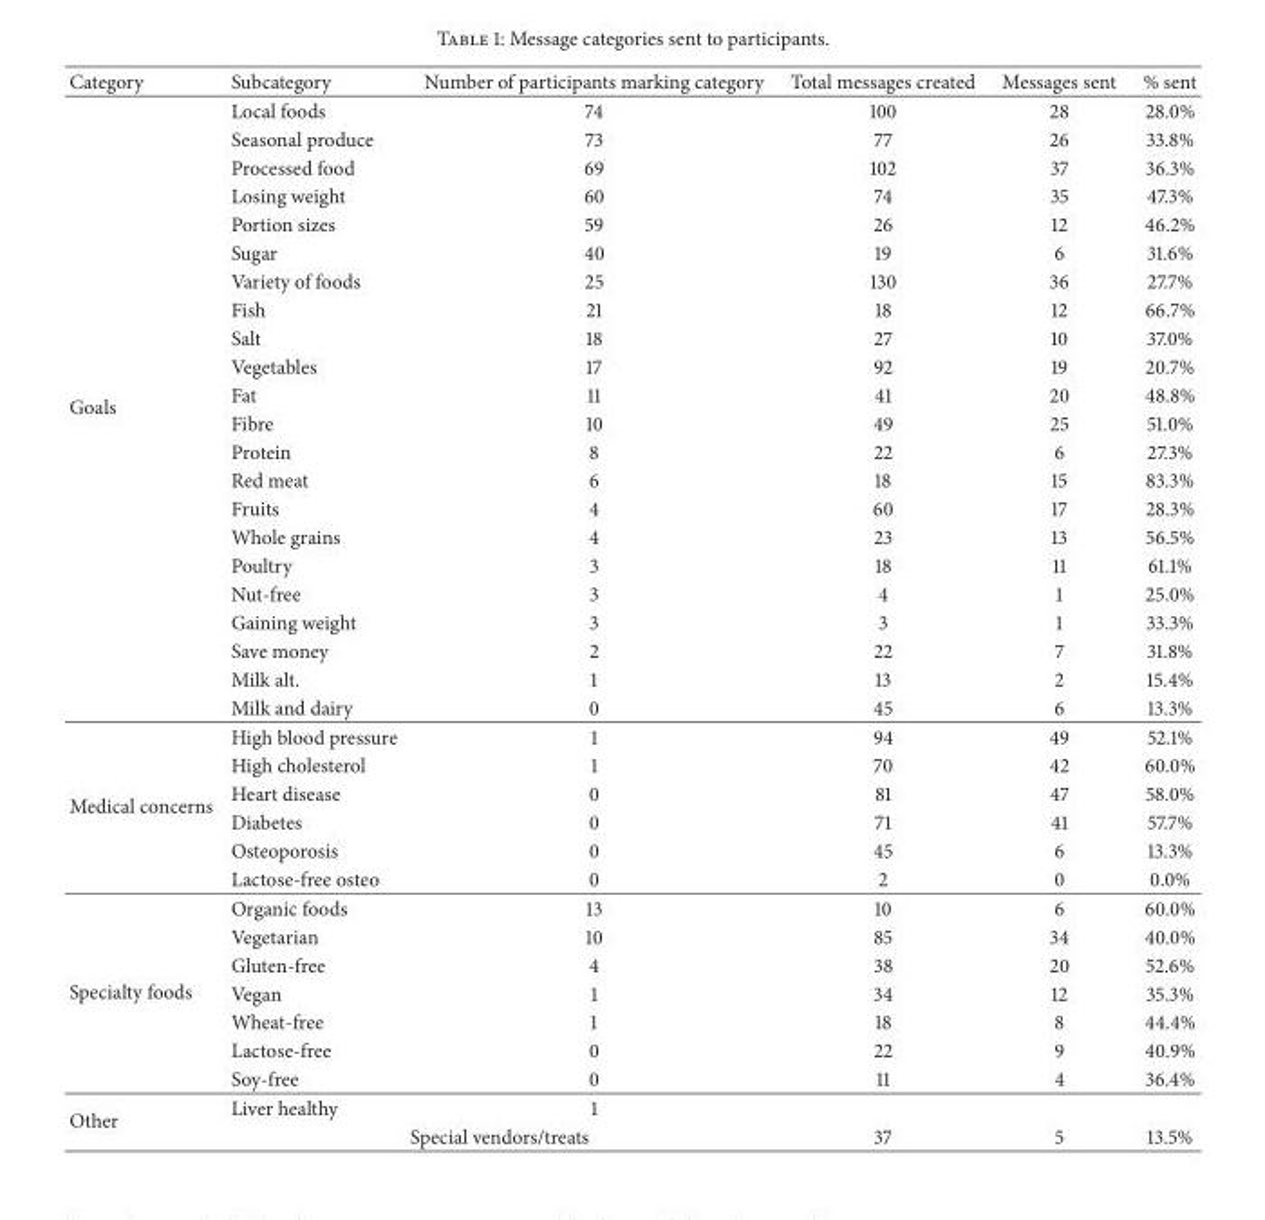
<table><thead><tr><td>Category</td><td>Subcategory</td><td>Number of participants marking category</td><td>Total messages created</td><td>Messages sent</td><td>% sent</td></tr></thead><tbody><tr><td rowspan="22">Goals</td><td>Local foods</td><td>74</td><td>100</td><td>28</td><td>28.0%</td></tr><tr><td>Seasonal produce</td><td>73</td><td>77</td><td>26</td><td>33.8%</td></tr><tr><td>Processed food</td><td>69</td><td>102</td><td>37</td><td>36.3%</td></tr><tr><td>Losing weight</td><td>60</td><td>74</td><td>35</td><td>47.3%</td></tr><tr><td>Portion sizes</td><td>59</td><td>26</td><td>12</td><td>46.2%</td></tr><tr><td>Sugar</td><td>40</td><td>19</td><td>6</td><td>31.6%</td></tr><tr><td>Variety of foods</td><td>25</td><td>130</td><td>36</td><td>27.7%</td></tr><tr><td>Fish</td><td>21</td><td>18</td><td>12</td><td>66.7%</td></tr><tr><td>Salt</td><td>18</td><td>27</td><td>10</td><td>37.0%</td></tr><tr><td>Vegetables</td><td>17</td><td>92</td><td>19</td><td>20.7%</td></tr><tr><td>Fat</td><td>11</td><td>41</td><td>20</td><td>48.8%</td></tr><tr><td>Fibre</td><td>10</td><td>49</td><td>25</td><td>51.0%</td></tr><tr><td>Protein</td><td>8</td><td>22</td><td>6</td><td>27.3%</td></tr><tr><td>Red meat</td><td>6</td><td>18</td><td>15</td><td>83.3%</td></tr><tr><td>Fruits</td><td>4</td><td>60</td><td>17</td><td>28.3%</td></tr><tr><td>Whole grains</td><td>4</td><td>23</td><td>13</td><td>56.5%</td></tr><tr><td>Poultry</td><td>3</td><td>18</td><td>11</td><td>61.1%</td></tr><tr><td>Nut-free</td><td>3</td><td>4</td><td>1</td><td>25.0%</td></tr><tr><td>Gaining weight</td><td>3</td><td>3</td><td>1</td><td>33.3%</td></tr><tr><td>Save money</td><td>2</td><td>22</td><td>7</td><td>31.8%</td></tr><tr><td>Milk alt.</td><td>1</td><td>13</td><td>2</td><td>15.4%</td></tr><tr><td>Milk and dairy</td><td>0</td><td>45</td><td>6</td><td>13.3%</td></tr><tr><td rowspan="6">Medical concerns</td><td>High blood pressure</td><td>1</td><td>94</td><td>49</td><td>52.1%</td></tr><tr><td>High cholesterol</td><td>1</td><td>70</td><td>42</td><td>60.0%</td></tr><tr><td>Heart disease</td><td>0</td><td>81</td><td>47</td><td>58.0%</td></tr><tr><td>Diabetes</td><td>0</td><td>71</td><td>41</td><td>57.7%</td></tr><tr><td>Osteoporosis</td><td>0</td><td>45</td><td>6</td><td>13.3%</td></tr><tr><td>Lactose-free osteo</td><td>0</td><td>2</td><td>0</td><td>0.0%</td></tr><tr><td rowspan="7">Specialty foods</td><td>Organic foods</td><td>13</td><td>10</td><td>6</td><td>60.0%</td></tr><tr><td>Vegetarian</td><td>10</td><td>85</td><td>34</td><td>40.0%</td></tr><tr><td>Gluten-free</td><td>4</td><td>38</td><td>20</td><td>52.6%</td></tr><tr><td>Vegan</td><td>1</td><td>34</td><td>12</td><td>35.3%</td></tr><tr><td>Wheat-free</td><td>1</td><td>18</td><td>8</td><td>44.4%</td></tr><tr><td>Lactose-free</td><td>0</td><td>22</td><td>9</td><td>40.9%</td></tr><tr><td>Soy-free</td><td>0</td><td>11</td><td>4</td><td>36.4%</td></tr><tr><td rowspan="2">Other</td><td>Liver healthy</td><td>1</td><td></td><td></td><td></td></tr><tr><td colspan="2">Special vendors/treats</td><td>37</td><td>5</td><td>13.5%</td></tr></tbody></table>